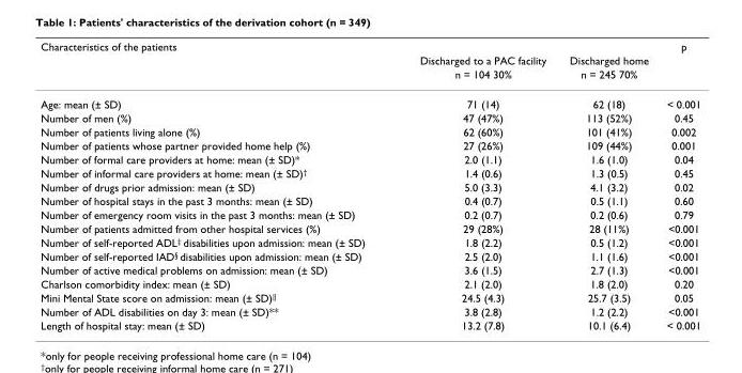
<table><thead><tr><td rowspan="3">Characteristics of the patients</td><td rowspan="3">Discharged to a PAC facility n = 104 30%</td><td rowspan="3">Discharged home n = 245 70%</td><td rowspan="3">p</td></tr><tr></tr><tr></tr></thead><tbody><tr><td>Age: mean (± SD)</td><td>71 (14)</td><td>62 (18)</td><td>&lt; 0.001</td></tr><tr><td>Number of men (%)</td><td>47 (47%)</td><td>113 (52%)</td><td>0.45</td></tr><tr><td>Number of patients living alone (%)</td><td>62 (60%)</td><td>101 (41%)</td><td>0.002</td></tr><tr><td>Number of patients whose partner provided home help (%)</td><td>27 (26%)</td><td>109 (44%)</td><td>0.001</td></tr><tr><td>Number of formal care providers at home: mean (± SD)*</td><td>2.0 (1.1)</td><td>1.6 (1.0)</td><td>0.04</td></tr><tr><td>Number of informal care providers at home: mean (± SD)<sup>†</sup></td><td>1.4 (0.6)</td><td>1.3 (0.5)</td><td>0.45</td></tr><tr><td>Number of drugs prior admission: mean (± SD)</td><td>5.0 (3.3)</td><td>4.1 (3.2)</td><td>0.02</td></tr><tr><td>Number of hospital stays in the past 3 months: mean (± SD)</td><td>0.4 (0.7)</td><td>0.5 (1.1)</td><td>0.60</td></tr><tr><td>Number of emergency room visits in the past 3 months: mean (± SD)</td><td>0.2 (0.7)</td><td>0.2 (0.6)</td><td>0.79</td></tr><tr><td>Number of patients admitted from other hospital services (%)</td><td>29 (28%)</td><td>28 (11%)</td><td>&lt;0.001</td></tr><tr><td>Number of self-reported ADL<sup>‡</sup> disabilities upon admission: mean (± SD)</td><td>1.8 (2.2)</td><td>0.5 (1.2)</td><td>&lt;0.001</td></tr><tr><td>Number of self-reported IAD<sup>§</sup> disabilities upon admission: mean (± SD)</td><td>2.5 (2.0)</td><td>1.1 (1.6)</td><td>&lt;0.001</td></tr><tr><td>Number of active medical problems on admission: mean (± SD)</td><td>3.6 (1.5)</td><td>2.7 (1.3)</td><td>&lt;0.001</td></tr><tr><td>Charlson comorbidity index: mean (± SD)</td><td>2.1 (2.0)</td><td>1.8 (2.0)</td><td>0.20</td></tr><tr><td>Mini Mental State score on admission: mean (± SD)<sup>||</sup></td><td>24.5 (4.3)</td><td>25.7 (3.5)</td><td>0.05</td></tr><tr><td>Number of ADL disabilities on day 3: mean (± SD)**</td><td>3.8 (2.8)</td><td>1.2 (2.2)</td><td>&lt;0.001</td></tr><tr><td>Length of hospital stay: mean (± SD)</td><td>13.2 (7.8)</td><td>10.1 (6.4)</td><td>&lt; 0.001</td></tr></tbody></table>